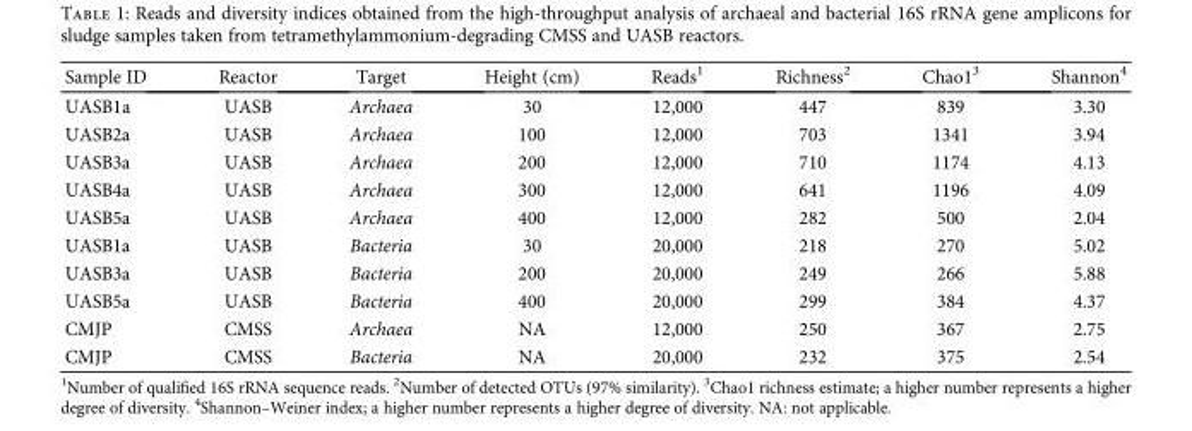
<table><thead><tr><td>Sample ID</td><td>Reactor</td><td>Target</td><td>Height (cm)</td><td>Reads<sup>1</sup></td><td>Richness<sup>2</sup></td><td>Chao1<sup>3</sup></td><td>Shannon<sup>4</sup></td></tr></thead><tbody><tr><td>UASB1a</td><td>UASB</td><td>Archaea</td><td>30</td><td>12,000</td><td>447</td><td>839</td><td>3.30</td></tr><tr><td>UASB2a</td><td>UASB</td><td>Archaea</td><td>100</td><td>12,000</td><td>703</td><td>1341</td><td>3.94</td></tr><tr><td>UASB3a</td><td>UASB</td><td>Archaea</td><td>200</td><td>12,000</td><td>710</td><td>1174</td><td>4.13</td></tr><tr><td>UASB4a</td><td>UASB</td><td>Archaea</td><td>300</td><td>12,000</td><td>641</td><td>1196</td><td>4.09</td></tr><tr><td>UASB5a</td><td>UASB</td><td>Archaea</td><td>400</td><td>12,000</td><td>282</td><td>500</td><td>2.04</td></tr><tr><td>UASB1a</td><td>UASB</td><td>Bacteria</td><td>30</td><td>20,000</td><td>218</td><td>270</td><td>5.02</td></tr><tr><td>UASB3a</td><td>UASB</td><td>Bacteria</td><td>200</td><td>20,000</td><td>249</td><td>266</td><td>5.88</td></tr><tr><td>UASB5a</td><td>UASB</td><td>Bacteria</td><td>400</td><td>20,000</td><td>299</td><td>384</td><td>4.37</td></tr><tr><td>CMJP</td><td>CMSS</td><td>Archaea</td><td>NA</td><td>12,000</td><td>250</td><td>367</td><td>2.75</td></tr><tr><td>CMJP</td><td>CMSS</td><td>Bacteria</td><td>NA</td><td>20,000</td><td>232</td><td>375</td><td>2.54</td></tr></tbody></table>